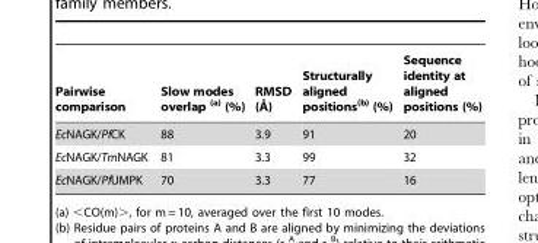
<table><thead><tr><td>Pairwise comparison</td><td>Slow modes overlap (a) (%)</td><td>RMSD (A˚)</td><td>Structurally aligned positions(b) (%)</td><td>Sequence identity at aligned positions (%)</td></tr></thead><tbody><tr><td>EcNAGK/PfCK</td><td>88</td><td>3.9</td><td>91</td><td>20</td></tr><tr><td>EcNAGK/TmNAGK</td><td>81</td><td>3.3</td><td>99</td><td>32</td></tr><tr><td>EcNAGK/PfUMPK</td><td>70</td><td>3.3</td><td>77</td><td>16</td></tr></tbody></table>